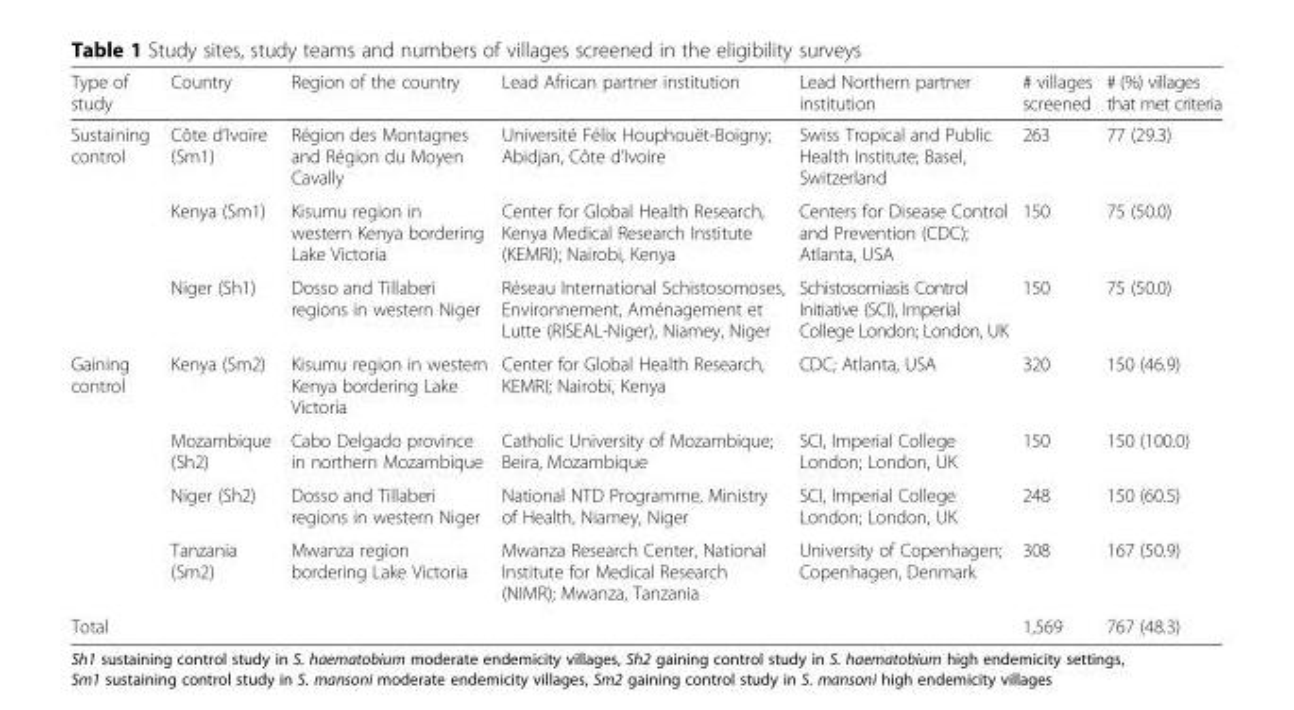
<table><thead><tr><td>Type of study</td><td>Country</td><td>Region of the country</td><td>Lead African partner institution</td><td>Lead Northern partner institution</td><td># villages screened</td><td># (%) villages that met criteria</td></tr></thead><tbody><tr><td rowspan="3">Sustaining control</td><td>Côte d’Ivoire (Sm1)</td><td>Région des Montagnes and Région du Moyen Cavally</td><td>Université Félix Houphouët-Boigny; Abidjan, Côte d’Ivoire</td><td>Swiss Tropical and Public Health Institute; Basel, Switzerland</td><td>263</td><td>77 (29.3)</td></tr><tr><td>Kenya (Sm1)</td><td>Kisumu region in western Kenya bordering Lake Victoria</td><td>Center for Global Health Research, Kenya Medical Research Institute (KEMRI); Nairobi, Kenya</td><td>Centers for Disease Control and Prevention (CDC); Atlanta, USA</td><td>150</td><td>75 (50.0)</td></tr><tr><td>Niger (Sh1)</td><td>Dosso and Tillaberi regions in western Niger</td><td>Réseau International Schistosomoses, Environnement, Aménagement et Lutte (RISEAL-Niger), Niamey, Niger</td><td>Schistosomiasis Control Initiative (SCI), Imperial College London; London, UK</td><td>150</td><td>75 (50.0)</td></tr><tr><td rowspan="4">Gaining control</td><td>Kenya (Sm2)</td><td>Kisumu region in western Kenya bordering Lake Victoria</td><td>Center for Global Health Research, KEMRI; Nairobi, Kenya</td><td>CDC; Atlanta, USA</td><td>320</td><td>150 (46.9)</td></tr><tr><td>Mozambique (Sh2)</td><td>Cabo Delgado province in northern Mozambique</td><td>Catholic University of Mozambique; Beira, Mozambique</td><td>SCI, Imperial College London; London, UK</td><td>150</td><td>150 (100.0)</td></tr><tr><td>Niger (Sh2)</td><td>Dosso and Tillaberi regions in western Niger</td><td>National NTD Programme, Ministry of Health, Niamey, Niger</td><td>SCI, Imperial College London; London, UK</td><td>248</td><td>150 (60.5)</td></tr><tr><td>Tanzania (Sm2)</td><td>Mwanza region bordering Lake Victoria</td><td>Mwanza Research Center, National Institute for Medical Research (NIMR); Mwanza, Tanzania</td><td>University of Copenhagen; Copenhagen, Denmark</td><td>308</td><td>167 (50.9)</td></tr><tr><td>Total</td><td></td><td></td><td></td><td></td><td>1,569</td><td>767 (48.3)</td></tr></tbody></table>